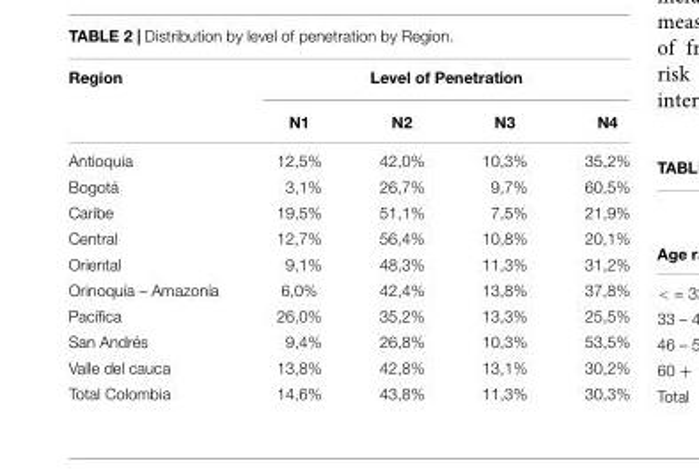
<table><thead><tr><td rowspan="2">Region</td><td colspan="4">Level of Penetration</td></tr><tr><td>N1</td><td>N2</td><td>N3</td><td>N4</td></tr></thead><tbody><tr><td>Antioquia</td><td>12,5%</td><td>42,0%</td><td>10,3%</td><td>35,2%</td></tr><tr><td>Bogotá</td><td>3,1%</td><td>26,7%</td><td>9,7%</td><td>60,5%</td></tr><tr><td>Caribe</td><td>19,5%</td><td>51,1%</td><td>7,5%</td><td>21,9%</td></tr><tr><td>Central</td><td>12,7%</td><td>56,4%</td><td>10,8%</td><td>20,1%</td></tr><tr><td>Oriental</td><td>9,1%</td><td>48,3%</td><td>11,3%</td><td>31,2%</td></tr><tr><td>Orinoquía – Amazonía</td><td>6,0%</td><td>42,4%</td><td>13,8%</td><td>37,8%</td></tr><tr><td>Pacífica</td><td>26,0%</td><td>35,2%</td><td>13,3%</td><td>25,5%</td></tr><tr><td>San Andrés</td><td>9,4%</td><td>26,8%</td><td>10,3%</td><td>53,5%</td></tr><tr><td>Valle del cauca</td><td>13,8%</td><td>42,8%</td><td>13,1%</td><td>30,2%</td></tr><tr><td>Total Colombia</td><td>14,6%</td><td>43,8%</td><td>11,3%</td><td>30,3%</td></tr></tbody></table>